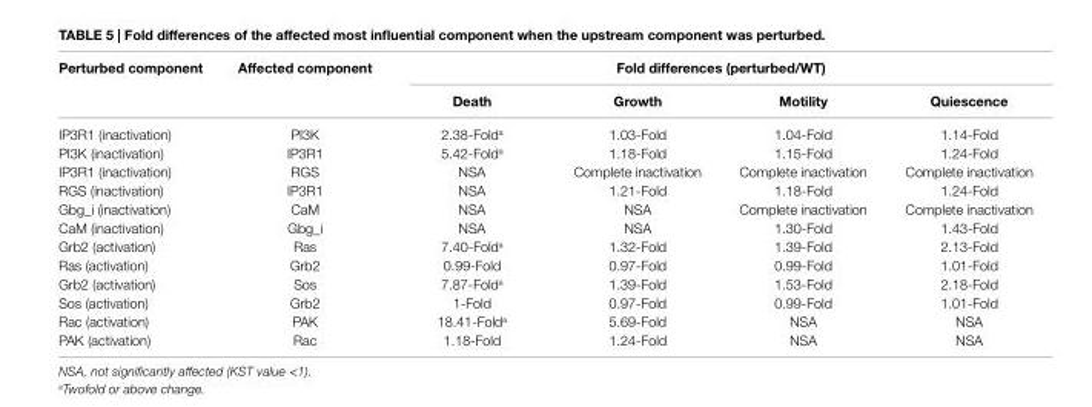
<table><thead><tr><td rowspan="2">Perturbed component</td><td rowspan="2">affected component</td><td colspan="4">Fold differences (perturbed/WT)</td></tr><tr><td>Death</td><td>growth</td><td>Motility</td><td>Quiescence</td></tr></thead><tbody><tr><td>IP3R1 (inactivation)</td><td>PI3K</td><td>2.38-Fold<sup>a</sup></td><td>1.03-Fold</td><td>1.04-Fold</td><td>1.14-Fold</td></tr><tr><td>PI3K (inactivation)</td><td>IP3R1</td><td>5.42-Fold<sup>a</sup></td><td>1.18-Fold</td><td>1.15-Fold</td><td>1.24-Fold</td></tr><tr><td>IP3R1 (inactivation)</td><td>RGS</td><td>NSA</td><td>Complete inactivation</td><td>Complete inactivation</td><td>Complete inactivation</td></tr><tr><td>RGS (inactivation)</td><td>IP3R1</td><td>NSA</td><td>1.21-Fold</td><td>1.18-Fold</td><td>1.24-Fold</td></tr><tr><td>Gbg_i (inactivation)</td><td>CaM</td><td>NSA</td><td>NSA</td><td>Complete inactivation</td><td>Complete inactivation</td></tr><tr><td>CaM (inactivation)</td><td>Gbg_i</td><td>NSA</td><td>NSA</td><td>1.30-Fold</td><td>1.43-Fold</td></tr><tr><td>Grb2 (activation)</td><td>Ras</td><td>7.40-Fold<sup>a</sup></td><td>1.32-Fold</td><td>1.39-Fold</td><td>2.13-Fold</td></tr><tr><td>Ras (activation)</td><td>Grb2</td><td>0.99-Fold</td><td>0.97-Fold</td><td>0.99-Fold</td><td>1.01-Fold</td></tr><tr><td>Grb2 (activation)</td><td>Sos</td><td>7.87-Fold<sup>a</sup></td><td>1.39-Fold</td><td>1.53-Fold</td><td>2.18-Fold</td></tr><tr><td>Sos (activation)</td><td>Grb2</td><td>1-Fold</td><td>0.97-Fold</td><td>0.99-Fold</td><td>1.01-Fold</td></tr><tr><td>Rac (activation)</td><td>PAK</td><td>18.41-Fold<sup>a</sup></td><td>5.69-Fold</td><td>NSA</td><td>NSA</td></tr><tr><td>PAK (activation)</td><td>Rac</td><td>1.18-Fold</td><td>1.24-Fold</td><td>NSA</td><td>NSA</td></tr></tbody></table>